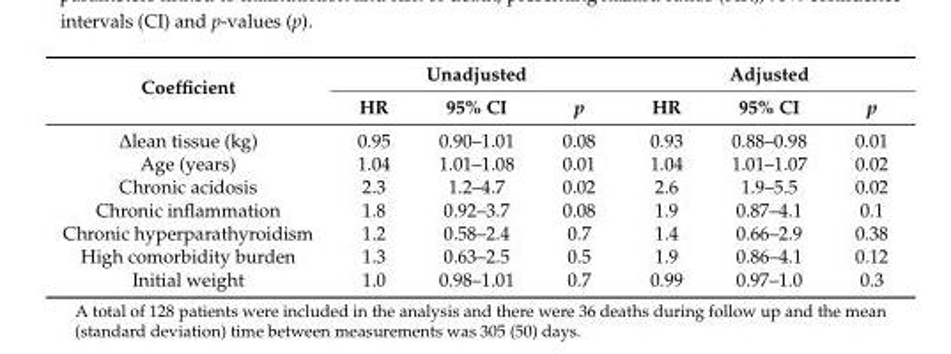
<table><thead><tr><td rowspan="2">Coefficient</td><td colspan="3">Unadjusted</td><td colspan="3">Adjusted</td></tr><tr><td>HR</td><td>95% CI</td><td>p</td><td>HR</td><td>95% CI</td><td>p</td></tr></thead><tbody><tr><td>∆lean tissue (kg)</td><td>0.95</td><td>0.90–1.01</td><td>0.08</td><td>0.93</td><td>0.88–0.98</td><td>0.01</td></tr><tr><td>Age (years)</td><td>1.04</td><td>1.01–1.08</td><td>0.01</td><td>1.04</td><td>1.01–1.07</td><td>0.02</td></tr><tr><td>Chronic acidosis</td><td>2.3</td><td>1.2–4.7</td><td>0.02</td><td>2.6</td><td>1.9–5.5</td><td>0.02</td></tr><tr><td>Chronic inflammation</td><td>1.8</td><td>0.92–3.7</td><td>0.08</td><td>1.9</td><td>0.87–4.1</td><td>0.1</td></tr><tr><td>Chronic hyperparathyroidism</td><td>1.2</td><td>0.58–2.4</td><td>0.7</td><td>1.4</td><td>0.66–2.9</td><td>0.38</td></tr><tr><td>High comorbidity burden</td><td>1.3</td><td>0.63–2.5</td><td>0.5</td><td>1.9</td><td>0.86–4.1</td><td>0.12</td></tr><tr><td>Initial weight</td><td>1.0</td><td>0.98–1.01</td><td>0.7</td><td>0.99</td><td>0.97–1.0</td><td>0.3</td></tr></tbody></table>